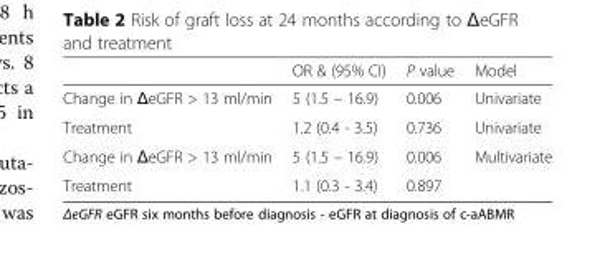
<table><thead><tr><td></td><td>OR &amp; (95% CI)</td><td>P value</td><td>Model</td></tr></thead><tbody><tr><td>Change in ΔeGFR &gt; 13 ml/min</td><td>5 (1.5 – 16.9)</td><td>0.006</td><td>Univariate</td></tr><tr><td>Treatment</td><td>1.2 (0.4 - 3.5)</td><td>0.736</td><td>Univariate</td></tr><tr><td>Change in ΔeGFR &gt; 13 ml/min</td><td>5 (1.5 – 16.9)</td><td>0.006</td><td rowspan="2">Multivariate</td></tr><tr><td>Treatment</td><td>1.1 (0.3 - 3.4)</td><td>0.897</td></tr></tbody></table>